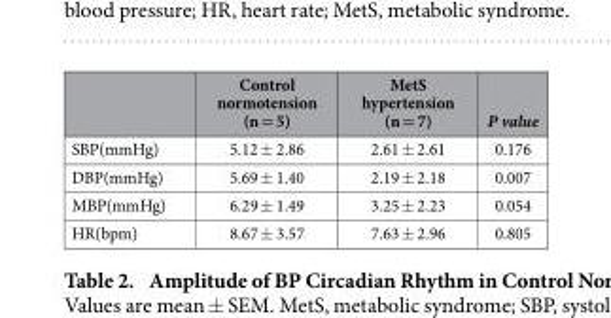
<table><thead><tr><td></td><td>Control normotension (n = 5)</td><td>MetS hypertension (n = 7)</td><td>P value</td></tr></thead><tbody><tr><td>SBP(mmHg)</td><td>5.12 ± 2.86</td><td>2.61 ± 2.61</td><td>0.176</td></tr><tr><td>DBP(mmHg)</td><td>5.69 ± 1.40</td><td>2.19 ± 2.18</td><td>0.007</td></tr><tr><td>MBP(mmHg)</td><td>6.29 ± 1.49</td><td>3.25 ± 2.23</td><td>0.054</td></tr><tr><td>HR(bpm)</td><td>8.67 ± 3.57</td><td>7.63 ± 2.96</td><td>0.805</td></tr></tbody></table>